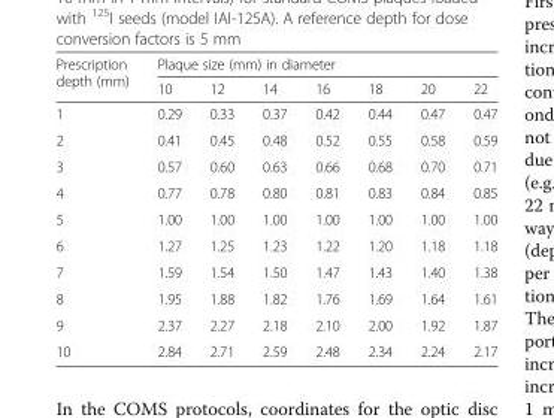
<table><thead><tr><td rowspan="2">Prescription depth (mm)</td><td colspan="7">Plaque size (mm) in diameter</td></tr><tr><td>10</td><td>12</td><td>14</td><td>16</td><td>18</td><td>20</td><td>22</td></tr></thead><tbody><tr><td>1</td><td>0.29</td><td>0.33</td><td>0.37</td><td>0.42</td><td>0.44</td><td>0.47</td><td>0.47</td></tr><tr><td>2</td><td>0.41</td><td>0.45</td><td>0.48</td><td>0.52</td><td>0.55</td><td>0.58</td><td>0.59</td></tr><tr><td>3</td><td>0.57</td><td>0.60</td><td>0.63</td><td>0.66</td><td>0.68</td><td>0.70</td><td>0.71</td></tr><tr><td>4</td><td>0.77</td><td>0.78</td><td>0.80</td><td>0.81</td><td>0.83</td><td>0.84</td><td>0.85</td></tr><tr><td>5</td><td>1.00</td><td>1.00</td><td>1.00</td><td>1.00</td><td>1.00</td><td>1.00</td><td>1.00</td></tr><tr><td>6</td><td>1.27</td><td>1.25</td><td>1.23</td><td>1.22</td><td>1.20</td><td>1.18</td><td>1.18</td></tr><tr><td>7</td><td>1.59</td><td>1.54</td><td>1.50</td><td>1.47</td><td>1.43</td><td>1.40</td><td>1.38</td></tr><tr><td>8</td><td>1.95</td><td>1.88</td><td>1.82</td><td>1.76</td><td>1.69</td><td>1.64</td><td>1.61</td></tr><tr><td>9</td><td>2.37</td><td>2.27</td><td>2.18</td><td>2.10</td><td>2.00</td><td>1.92</td><td>1.87</td></tr><tr><td>10</td><td>2.84</td><td>2.71</td><td>2.59</td><td>2.48</td><td>2.34</td><td>2.24</td><td>2.17</td></tr></tbody></table>